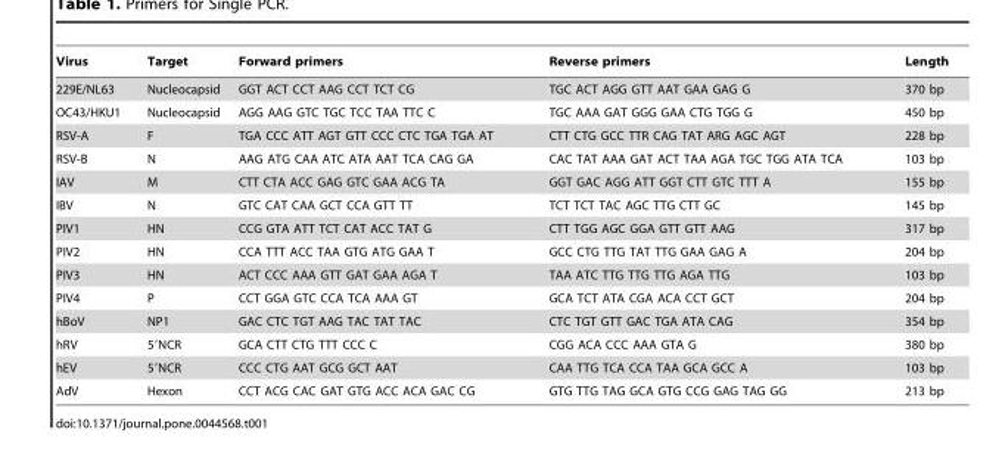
<table><thead><tr><td>Virus</td><td>Target</td><td>Forward primers</td><td>Reverse primers</td><td>Length</td></tr></thead><tbody><tr><td>229E/NL63</td><td>Nucleocapsid</td><td>GGT ACT CCT AAG CCT TCT CG</td><td>TGC ACT AGG GTT AAT GAA GAG G</td><td>370 bp</td></tr><tr><td>OC43/HKU1</td><td>Nucleocapsid</td><td>AGG AAG GTC TGC TCC TAA TTC C</td><td>TGC AAA GAT GGG GAA CTG TGG G</td><td>450 bp</td></tr><tr><td>RSV-A</td><td>F</td><td>TGA CCC ATT AGT GTT CCC CTC TGA TGA AT</td><td>CTT CTG GCC TTR CAG TAT ARG AGC AGT</td><td>228 bp</td></tr><tr><td>RSV-B</td><td>N</td><td>AAG ATG CAA ATC ATA AAT TCA CAG GA</td><td>CAC TAT AAA GAT ACT TAA AGA TGC TGG ATA TCA</td><td>103 bp</td></tr><tr><td>IAV</td><td>M</td><td>CTT CTA ACC GAG GTC GAA ACG TA</td><td>GGT GAC AGG ATT GGT CTT GTC TTT A</td><td>155 bp</td></tr><tr><td>IBV</td><td>N</td><td>GTC CAT CAA GCT CCA GTT TT</td><td>TCT TCT TAC AGC TTG CTT GC</td><td>145 bp</td></tr><tr><td>PIV1</td><td>HN</td><td>CCG GTA ATT TCT CAT ACC TAT G</td><td>CTT TGG AGC GGA GTT GTT AAG</td><td>317 bp</td></tr><tr><td>PIV2</td><td>HN</td><td>CCA TTT ACC TAA GTG ATG GAA T</td><td>GCC CTG TTG TAT TTG GAA GAG A</td><td>204 bp</td></tr><tr><td>PIV3</td><td>HN</td><td>ACT CCC AAA GTT GAT GAA AGA T</td><td>TAA ATC TTG TTG TTG AGA TTG</td><td>103 bp</td></tr><tr><td>PIV4</td><td>P</td><td>CCT GGA GTC CCA TCA AAA GT</td><td>GCA TCT ATA CGA ACA CCT GCT</td><td>204 bp</td></tr><tr><td>hBoV</td><td>NP1</td><td>GAC CTC TGT AAG TAC TAT TAC</td><td>CTC TGT GTT GAC TGA ATA CAG</td><td>354 bp</td></tr><tr><td>hRV</td><td>5′NCR</td><td>GCA CTT CTG TTT CCC C</td><td>CGG ACA CCC AAA GTA G</td><td>380 bp</td></tr><tr><td>hEV</td><td>5′NCR</td><td>CCC CTG AAT GCG GCT AAT</td><td>CAA TTG TCA CCA TAA GCA GCC A</td><td>103 bp</td></tr><tr><td>AdV</td><td>Hexon</td><td>CCT ACG CAC GAT GTG ACC ACA GAC CG</td><td>GTG TTG TAG GCA GTG CCG GAG TAG GG</td><td>213 bp</td></tr></tbody></table>